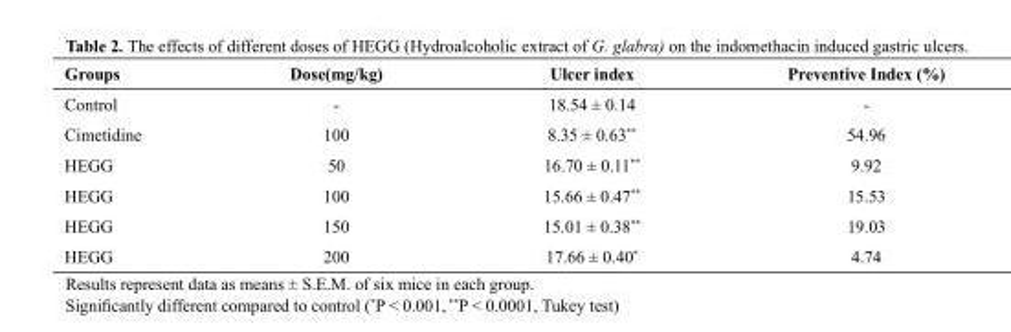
<table><thead><tr><td>Groups</td><td>Dose(mg/kg)</td><td>Ulcer index</td><td>Preventive Index (%)</td></tr></thead><tbody><tr><td>Control</td><td>-</td><td>18.54 ± 0.14</td><td>-</td></tr><tr><td>Cimetidine</td><td>100</td><td>8.35 ± 0.63**</td><td>54.96</td></tr><tr><td>HEGG</td><td>50</td><td>16.70 ± 0.11**</td><td>9.92</td></tr><tr><td>HEGG</td><td>100</td><td>15.66 ± 0.47**</td><td>15.53</td></tr><tr><td>HEGG</td><td>150</td><td>15.01 ± 0.38**</td><td>19.03</td></tr><tr><td>HEGG</td><td>200</td><td>17.66 ± 0.40*</td><td>4.74</td></tr></tbody></table>